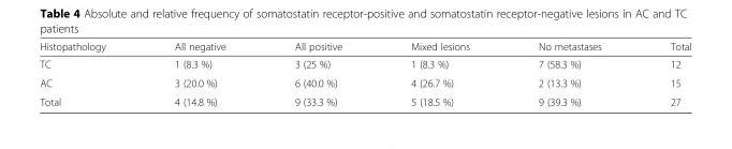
<table><thead><tr><td>Histopathology</td><td>All negative</td><td>All positive</td><td>Mixed lesions</td><td>No metastases</td><td>Total</td></tr></thead><tbody><tr><td>TC</td><td>1 (8.3 %)</td><td>3 (25 %)</td><td>1 (8.3 %)</td><td>7 (58.3 %)</td><td>12</td></tr><tr><td>AC</td><td>3 (20.0 %)</td><td>6 (40.0 %)</td><td>4 (26.7 %)</td><td>2 (13.3 %)</td><td>15</td></tr><tr><td>Total</td><td>4 (14.8 %)</td><td>9 (33.3 %)</td><td>5 (18.5 %)</td><td>9 (39.3 %)</td><td>27</td></tr></tbody></table>